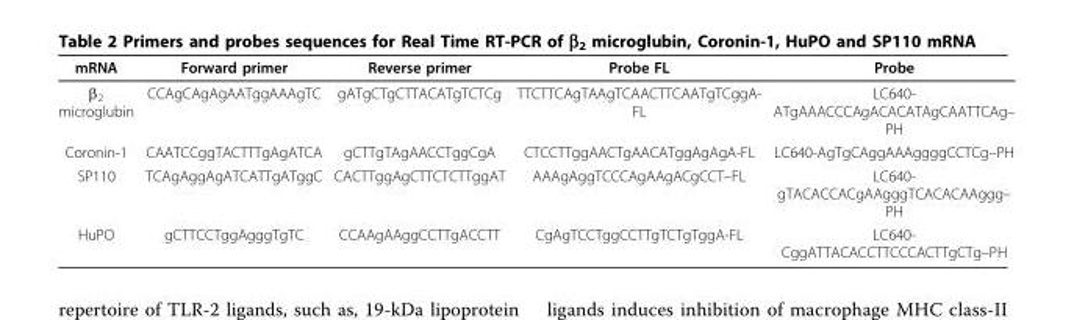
<table><thead><tr><td>mRNA</td><td>Forward primer</td><td>Reverse primer</td><td>Probe FL</td><td>Probe</td></tr></thead><tbody><tr><td>β<sub>2</sub> microglubin</td><td>CCAgCAgAgAATggAAAgTC</td><td>gATgCTgCTTACATgTCTCg</td><td>TTCTTCAgTAAgTCAACTTCAATgTCggA- FL</td><td>LC640- ATgAAACCCAgACACATAgCAATTCAg– PH</td></tr><tr><td>Coronin-1</td><td>CAATCCggTACTTTgAgATCA</td><td>gCTTgTAgAACCTggCgA</td><td>CTCCTTggAACTgAACATggAgAgA-FL</td><td>LC640-AgTgCAggAAAggggCCTCg–PH</td></tr><tr><td>SP110</td><td>TCAgAggAgATCATTgATggC</td><td>CACTTggAgCTTCTCTTggAT</td><td>AAAgAggTCCCAgAAgACgCCT–FL</td><td>LC640- gTACACCACgAAgggTCACACAAggg– PH</td></tr><tr><td>HuPO</td><td>gCTTCCTggAgggTgTC</td><td>CCAAgAAggCCTTgACCTT</td><td>CgAgTCCTggCCTTgTCTgTggA-FL</td><td>LC640- CggATTACACCTTCCCACTTgCTg–PH</td></tr></tbody></table>